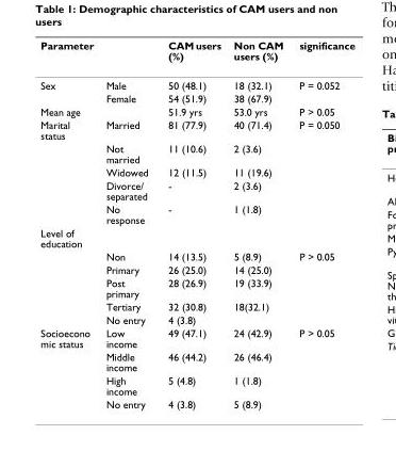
<table><thead><tr><td colspan="2">Parameter</td><td rowspan="2">CAM users (%) 50 (48.1)</td><td rowspan="2">Non CAM users (%) 18 (32.1)</td><td rowspan="2">significance P = 0.052</td></tr><tr><td>Sex</td><td>Male</td></tr></thead><tbody><tr><td></td><td>Female</td><td>54 (51.9)</td><td>38 (67.9)</td><td></td></tr><tr><td>Mean age</td><td></td><td>51.9 yrs</td><td>53.0 yrs</td><td>P &gt; 0.05</td></tr><tr><td rowspan="5">Marital status</td><td>Married</td><td>81 (77.9)</td><td>40 (71.4)</td><td>P = 0.050</td></tr><tr><td>Not married</td><td>11 (10.6)</td><td>2 (3.6)</td><td></td></tr><tr><td>Widowed</td><td>12 (11.5)</td><td>11 (19.6)</td><td></td></tr><tr><td>Divorce/ separated</td><td>-</td><td>2 (3.6)</td><td></td></tr><tr><td>No response</td><td>-</td><td>1 (1.8)</td><td></td></tr><tr><td colspan="5">Level of education</td></tr><tr><td></td><td>Non</td><td>14 (13.5)</td><td>5 (8.9)</td><td>P &gt; 0.05</td></tr><tr><td></td><td>Primary</td><td>26 (25.0)</td><td>14 (25.0)</td><td></td></tr><tr><td></td><td>Post primary</td><td>28 (26.9)</td><td>19 (33.9)</td><td></td></tr><tr><td></td><td>Tertiary</td><td>32 (30.8)</td><td>18(32.1)</td><td></td></tr><tr><td></td><td>No entry</td><td>4 (3.8)</td><td></td><td></td></tr><tr><td rowspan="4">Socioecono mic status</td><td>Low income</td><td>49 (47.1)</td><td>24 (42.9)</td><td>P &gt; 0.05</td></tr><tr><td>Middle income</td><td>46 (44.2)</td><td>26 (46.4)</td><td></td></tr><tr><td>High income</td><td>5 (4.8)</td><td>1 (1.8)</td><td></td></tr><tr><td>No entry</td><td>4 (3.8)</td><td>5 (8.9)</td><td></td></tr></tbody></table>